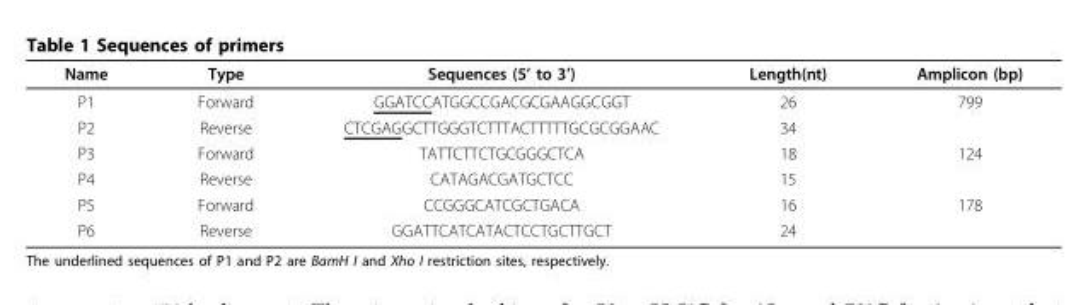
<table><thead><tr><td>Name</td><td>Type</td><td>Sequences (5’ to 3’)</td><td>Length(nt)</td><td>Amplicon (bp)</td></tr></thead><tbody><tr><td>P1</td><td>Forward</td><td>GGATCCATGGCCGACGCGAAGGCGGT</td><td>26</td><td>799</td></tr><tr><td>P2</td><td>Reverse</td><td>CTCGAGGCTTGGGTCTTTACTTTTTGCGCGGAAC</td><td>34</td><td></td></tr><tr><td>P3</td><td>Forward</td><td>TATTCTTCTGCGGGCTCA</td><td>18</td><td>124</td></tr><tr><td>P4</td><td>Reverse</td><td>CATAGACGATGCTCC</td><td>15</td><td></td></tr><tr><td>P5</td><td>Forward</td><td>CCGGGCATCGCTGACA</td><td>16</td><td>178</td></tr><tr><td>P6</td><td>Reverse</td><td>GGATTCATCATACTCCTGCTTGCT</td><td>24</td><td></td></tr></tbody></table>